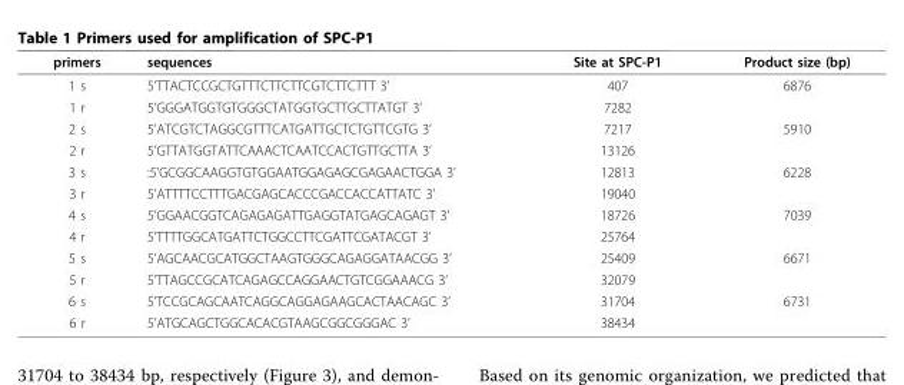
<table><thead><tr><td>primers</td><td>sequences</td><td>Site at SPC-P1</td><td>Product size (bp)</td></tr></thead><tbody><tr><td>1 s</td><td>5’TTACTCCGCTGTTTCTTCTTCGTCTTCTTT 3’</td><td>407</td><td>6876</td></tr><tr><td>1 r</td><td>5’GGGATGGTGTGGGCTATGGTGCTTGCTTATGT 3’</td><td>7282</td><td></td></tr><tr><td>2 s</td><td>5’ATCGTCTAGGCGTTTCATGATTGCTCTGTTCGTG 3’</td><td>7217</td><td>5910</td></tr><tr><td>2 r</td><td>5’GTTATGGTATTCAAACTCAATCCACTGTTGCTTA 3’</td><td>13126</td><td></td></tr><tr><td>3 s</td><td>:5’GCGGCAAGGTGTGGAATGGAGAGCGAGAACTGGA 3’</td><td>12813</td><td>6228</td></tr><tr><td>3 r</td><td>5’ATTTTCCTTTGACGAGCACCCGACCACCATTATC 3’</td><td>19040</td><td></td></tr><tr><td>4 s</td><td>5’GGAACGGTCAGAGAGATTGAGGTATGAGCAGAGT 3’</td><td>18726</td><td>7039</td></tr><tr><td>4 r</td><td>5’TTTTGGCATGATTCTGGCCTTCGATTCGATACGT 3’</td><td>25764</td><td></td></tr><tr><td>5 s</td><td>5’AGCAACGCATGGCTAAGTGGGCAGAGGATAACGG 3’</td><td>25409</td><td>6671</td></tr><tr><td>5 r</td><td>5’TTAGCCGCATCAGAGCCAGGAACTGTCGGAAACG 3’</td><td>32079</td><td></td></tr><tr><td>6 s</td><td>5’TCCGCAGCAATCAGGCAGGAGAAGCACTAACAGC 3’</td><td>31704</td><td>6731</td></tr><tr><td>6 r</td><td>5’ATGCAGCTGGCACACGTAAGCGGCGGGAC 3’</td><td>38434</td><td></td></tr></tbody></table>